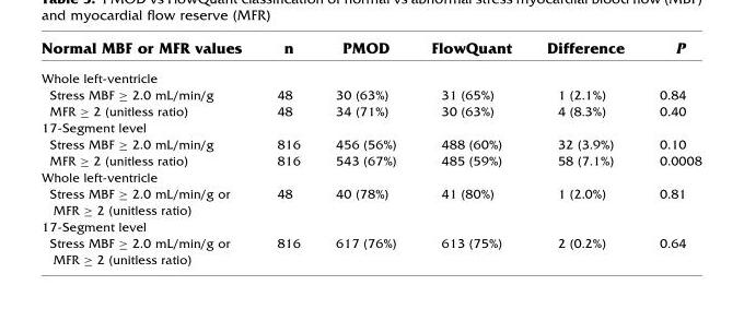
<table><thead><tr><td>Normal MBF or MFR values</td><td>n</td><td>PMOD</td><td>FlowQuant</td><td>Difference</td><td>P</td></tr></thead><tbody><tr><td colspan="6">Whole left-ventricle</td></tr><tr><td>Stress MBF ≥ 2.0 mL/min/g</td><td>48</td><td>30 (63%)</td><td>31 (65%)</td><td>1 (2.1%)</td><td>0.84</td></tr><tr><td>MFR ≥ 2 (unitless ratio)</td><td>48</td><td>34 (71%)</td><td>30 (63%)</td><td>4 (8.3%)</td><td>0.40</td></tr><tr><td colspan="6">17-Segment level</td></tr><tr><td>Stress MBF ≥ 2.0 mL/min/g</td><td>816</td><td>456 (56%)</td><td>488 (60%)</td><td>32 (3.9%)</td><td>0.10</td></tr><tr><td>MFR ≥ 2 (unitless ratio)</td><td>816</td><td>543 (67%)</td><td>485 (59%)</td><td>58 (7.1%)</td><td>0.0008</td></tr><tr><td colspan="6">Whole left-ventricle</td></tr><tr><td>Stress MBF ≥ 2.0 mL/min/g or MFR ≥ 2 (unitless ratio)</td><td>48</td><td>40 (78%)</td><td>41 (80%)</td><td>1 (2.0%)</td><td>0.81</td></tr><tr><td colspan="6">17-Segment level</td></tr><tr><td>Stress MBF ≥ 2.0 mL/min/g or MFR ≥ 2 (unitless ratio)</td><td>816</td><td>617 (76%)</td><td>613 (75%)</td><td>2 (0.2%)</td><td>0.64</td></tr></tbody></table>